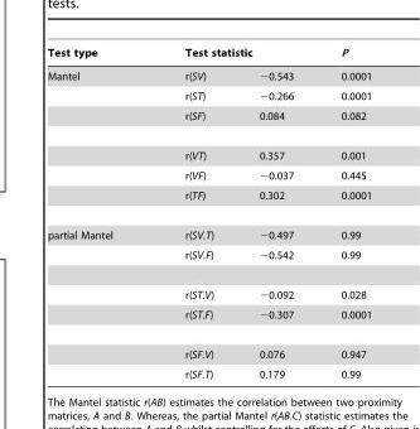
<table><thead><tr><td rowspan="2">Test type Mantel</td><td colspan="2">Test statistic</td><td rowspan="2">P 0.0001</td></tr><tr><td>r(SV)</td><td>−0.543</td></tr></thead><tbody><tr><td></td><td>r(ST)</td><td>−0.266</td><td>0.0001</td></tr><tr><td></td><td>r(SF)</td><td>0.084</td><td>0.082</td></tr><tr><td></td><td>r(VT)</td><td>0.357</td><td>0.001</td></tr><tr><td></td><td>r(VF)</td><td>−0.037</td><td>0.445</td></tr><tr><td></td><td>r(TF)</td><td>0.302</td><td>0.0001</td></tr><tr><td rowspan="6">partial Mantel</td><td>r(SV.T)</td><td>−0.497</td><td>0.99</td></tr><tr><td>r(SV.F)</td><td>−0.542</td><td>0.99</td></tr><tr><td>r(ST.V)</td><td>−0.092</td><td>0.028</td></tr><tr><td>r(ST.F)</td><td>−0.307</td><td>0.0001</td></tr><tr><td>r(SF.V)</td><td>0.076</td><td>0.947</td></tr><tr><td>r(SF.T)</td><td>0.179</td><td>0.99</td></tr></tbody></table>